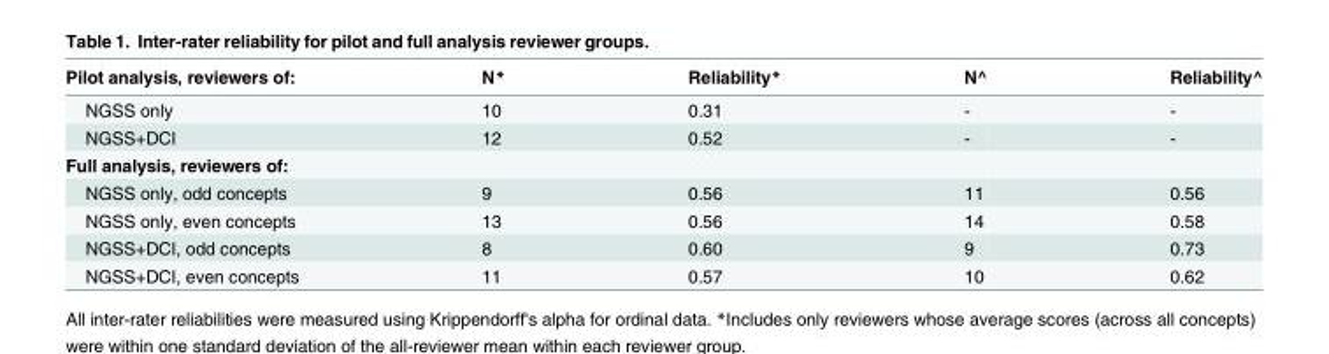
<table><thead><tr><td>Pilot analysis, reviewers of:</td><td>N*</td><td>Reliability*</td><td>N^</td><td>Reliability^</td></tr></thead><tbody><tr><td>NGSS only</td><td>10</td><td>0.31</td><td>-</td><td>-</td></tr><tr><td>NGSS+DCI</td><td>12</td><td>0.52</td><td>-</td><td>-</td></tr><tr><td colspan="5">Full analysis, reviewers of:</td></tr><tr><td>NGSS only, odd concepts</td><td>9</td><td>0.56</td><td>11</td><td>0.56</td></tr><tr><td>NGSS only, even concepts</td><td>13</td><td>0.56</td><td>14</td><td>0.58</td></tr><tr><td>NGSS+DCI, odd concepts</td><td>8</td><td>0.60</td><td>9</td><td>0.73</td></tr><tr><td>NGSS+DCI, even concepts</td><td>11</td><td>0.57</td><td>10</td><td>0.62</td></tr></tbody></table>